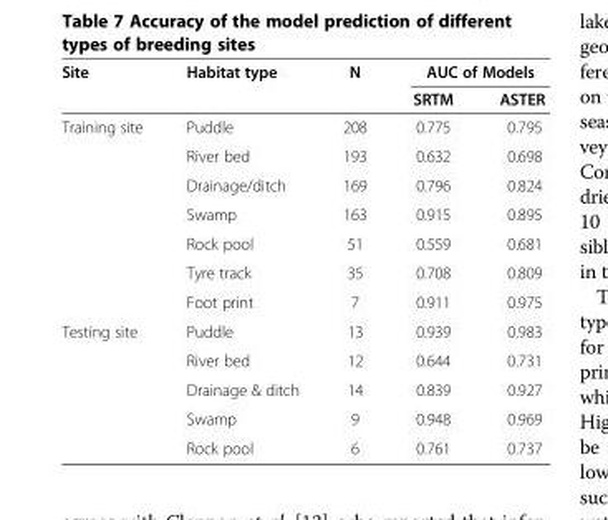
<table><thead><tr><td rowspan="2">Site</td><td rowspan="2">Habitat type</td><td rowspan="2">N</td><td colspan="2">AUC of Models</td></tr><tr><td>SRTM</td><td>ASTER</td></tr></thead><tbody><tr><td rowspan="7">Training site</td><td>Puddle</td><td>208</td><td>0.775</td><td>0.795</td></tr><tr><td>River bed</td><td>193</td><td>0.632</td><td>0.698</td></tr><tr><td>Drainage/ditch</td><td>169</td><td>0.796</td><td>0.824</td></tr><tr><td>Swamp</td><td>163</td><td>0.915</td><td>0.895</td></tr><tr><td>Rock pool</td><td>51</td><td>0.559</td><td>0.681</td></tr><tr><td>Tyre track</td><td>35</td><td>0.708</td><td>0.809</td></tr><tr><td>Foot print</td><td>7</td><td>0.911</td><td>0.975</td></tr><tr><td rowspan="5">Testing site</td><td>Puddle</td><td>13</td><td>0.939</td><td>0.983</td></tr><tr><td>River bed</td><td>12</td><td>0.644</td><td>0.731</td></tr><tr><td>Drainage &amp; ditch</td><td>14</td><td>0.839</td><td>0.927</td></tr><tr><td>Swamp</td><td>9</td><td>0.948</td><td>0.969</td></tr><tr><td>Rock pool</td><td>6</td><td>0.761</td><td>0.737</td></tr></tbody></table>